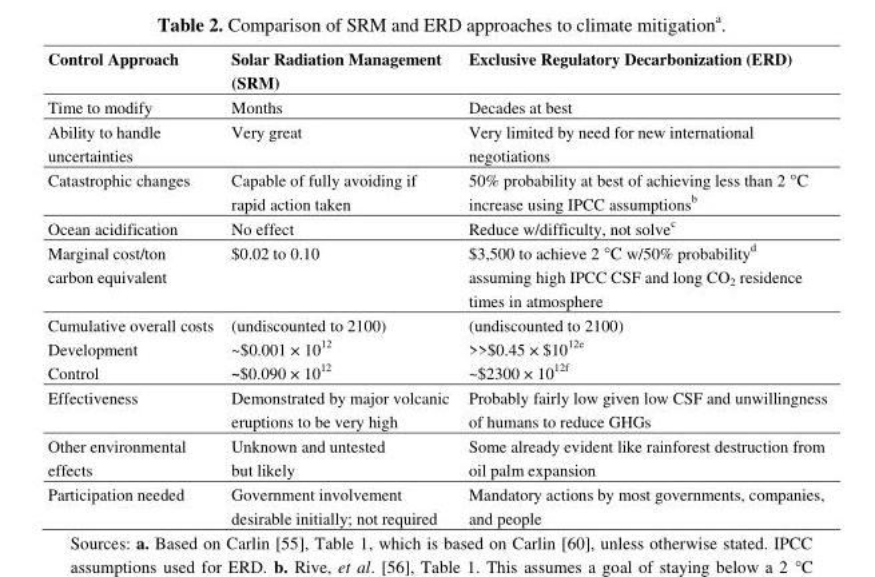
<table><thead><tr><td>Control Approach</td><td>Solar Radiation Management (SRM)</td><td>Exclusive Regulatory Decarbonization (ERD)</td></tr></thead><tbody><tr><td>Time to modify</td><td>Months</td><td>Decades at best</td></tr><tr><td>Ability to handle uncertainties</td><td>Very great</td><td>Very limited by need for new international negotiations</td></tr><tr><td>Catastrophic changes</td><td>Capable of fully avoiding if rapid action taken</td><td>50% probability at best of achieving less than 2 °C increase using IPCC assumptions<sup>b</sup></td></tr><tr><td>Ocean acidification</td><td>No effect</td><td>Reduce w/difficulty, not solve<sup>c</sup></td></tr><tr><td>Marginal cost/ton carbon equivalent</td><td>$0.02 to 0.10</td><td>$3,500 to achieve 2 °C w/50% probability<sup>d</sup> assuming high IPCC CSF and long CO<sub>2</sub> residence times in atmosphere</td></tr><tr><td>Cumulative overall costs Development Control</td><td>(undiscounted to 2100) ~$0.001 × 1012 ~$0.090 × 1012</td><td>(undiscounted to 2100) &gt;&gt;$0.45 × $1012e ~$2300 × 1012f</td></tr><tr><td>Effectiveness</td><td>Demonstrated by major volcanic eruptions to be very high</td><td>Probably fairly low given low CSF and unwillingness of humans to reduce GHGs</td></tr><tr><td>Other environmental effects</td><td>Unknown and untested but likely</td><td>Some already evident like rainforest destruction from oil palm expansion</td></tr><tr><td>Participation needed</td><td>Government involvement desirable initially; not required</td><td>Mandatory actions by most governments, companies, and people</td></tr></tbody></table>